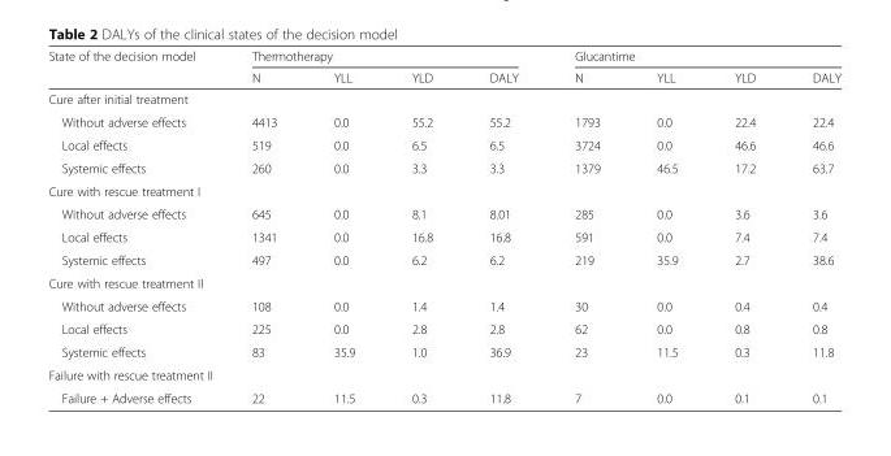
<table><thead><tr><td rowspan="2">State of the decision model</td><td colspan="4">Thermotherapy</td><td colspan="4">Glucantime</td></tr><tr><td>N</td><td>YLL</td><td>YLD</td><td>DALY</td><td>N</td><td>YLL</td><td>YLD</td><td>DALY</td></tr></thead><tbody><tr><td colspan="9">Cure after initial treatment</td></tr><tr><td>Without adverse effects</td><td>4413</td><td>0.0</td><td>55.2</td><td>55.2</td><td>1793</td><td>0.0</td><td>22.4</td><td>22.4</td></tr><tr><td>Local effects</td><td>519</td><td>0.0</td><td>6.5</td><td>6.5</td><td>3724</td><td>0.0</td><td>46.6</td><td>46.6</td></tr><tr><td>Systemic effects</td><td>260</td><td>0.0</td><td>3.3</td><td>3.3</td><td>1379</td><td>46.5</td><td>17.2</td><td>63.7</td></tr><tr><td colspan="9">Cure with rescue treatment I</td></tr><tr><td>Without adverse effects</td><td>645</td><td>0.0</td><td>8.1</td><td>8.01</td><td>285</td><td>0.0</td><td>3.6</td><td>3.6</td></tr><tr><td>Local effects</td><td>1341</td><td>0.0</td><td>16.8</td><td>16.8</td><td>591</td><td>0.0</td><td>7.4</td><td>7.4</td></tr><tr><td>Systemic effects</td><td>497</td><td>0.0</td><td>6.2</td><td>6.2</td><td>219</td><td>35.9</td><td>2.7</td><td>38.6</td></tr><tr><td colspan="9">Cure with rescue treatment II</td></tr><tr><td>Without adverse effects</td><td>108</td><td>0.0</td><td>1.4</td><td>1.4</td><td>30</td><td>0.0</td><td>0.4</td><td>0.4</td></tr><tr><td>Local effects</td><td>225</td><td>0.0</td><td>2.8</td><td>2.8</td><td>62</td><td>0.0</td><td>0.8</td><td>0.8</td></tr><tr><td>Systemic effects</td><td>83</td><td>35.9</td><td>1.0</td><td>36.9</td><td>23</td><td>11.5</td><td>0.3</td><td>11.8</td></tr><tr><td colspan="9">Failure with rescue treatment II</td></tr><tr><td>Failure + Adverse effects</td><td>22</td><td>11.5</td><td>0.3</td><td>11.8</td><td>7</td><td>0.0</td><td>0.1</td><td>0.1</td></tr></tbody></table>